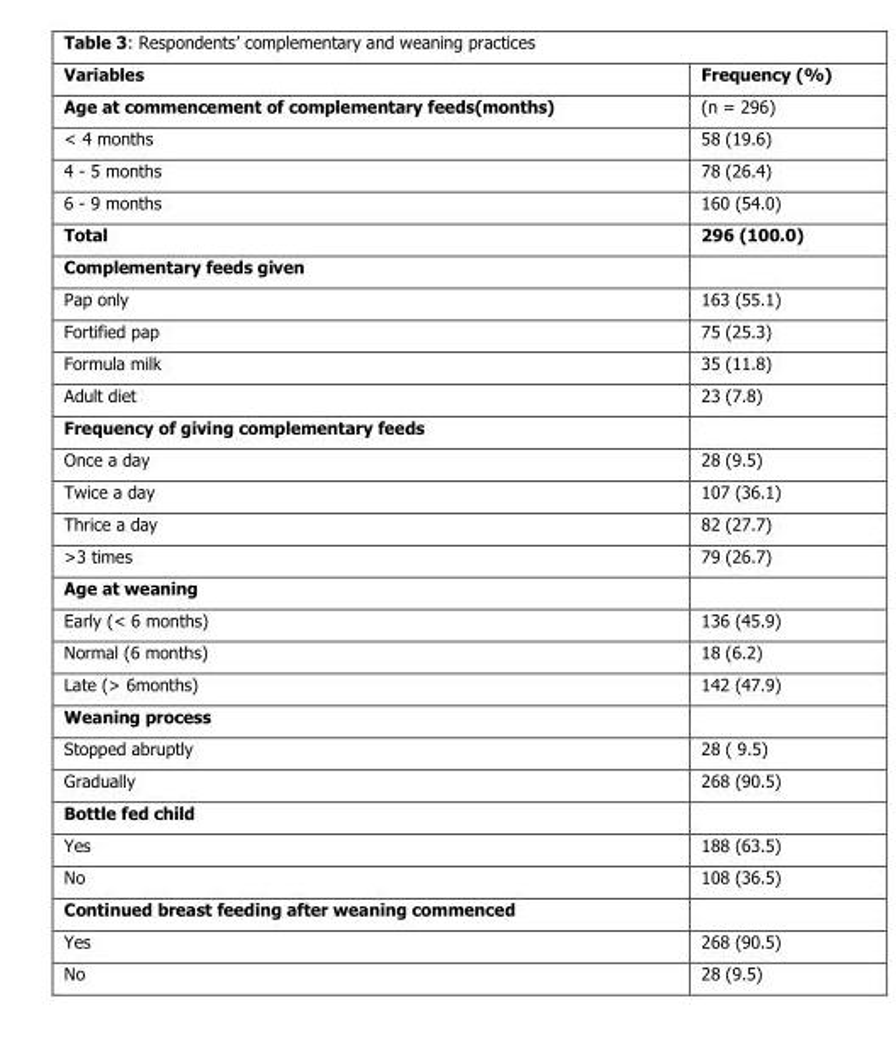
<table><thead><tr><td>Variables</td><td>Frequency (%)</td></tr></thead><tbody><tr><td>Age at commencement of complementary feeds(months)</td><td>(n = 296)</td></tr><tr><td>&lt; 4 months</td><td>58 (19.6)</td></tr><tr><td>4 - 5 months</td><td>78 (26.4)</td></tr><tr><td>6 - 9 months</td><td>160 (54.0)</td></tr><tr><td>Total</td><td>296 (100.0)</td></tr><tr><td colspan="2">Complementary feeds given</td></tr><tr><td>Pap only</td><td>163 (55.1)</td></tr><tr><td>Fortified pap</td><td>75 (25.3)</td></tr><tr><td>Formula milk</td><td>35 (11.8)</td></tr><tr><td>Adult diet</td><td>23 (7.8)</td></tr><tr><td colspan="2">Frequency of giving complementary feeds</td></tr><tr><td>Once a day</td><td>28 (9.5)</td></tr><tr><td>Twice a day</td><td>107 (36.1)</td></tr><tr><td>Thrice a day</td><td>82 (27.7)</td></tr><tr><td>&gt;3 times</td><td>79 (26.7)</td></tr><tr><td colspan="2">Age at weaning</td></tr><tr><td>Early (&lt; 6 months)</td><td>136 (45.9)</td></tr><tr><td>Normal (6 months)</td><td>18 (6.2)</td></tr><tr><td>Late (&gt; 6months)</td><td>142 (47.9)</td></tr><tr><td colspan="2">Weaning process</td></tr><tr><td>Stopped abruptly</td><td>28 ( 9.5)</td></tr><tr><td>Gradually</td><td>268 (90.5)</td></tr><tr><td colspan="2">Bottle fed child</td></tr><tr><td>Yes</td><td>188 (63.5)</td></tr><tr><td>No</td><td>108 (36.5)</td></tr><tr><td colspan="2">Continued breast feeding after weaning commenced</td></tr><tr><td>Yes</td><td>268 (90.5)</td></tr><tr><td>No</td><td>28 (9.5)</td></tr></tbody></table>